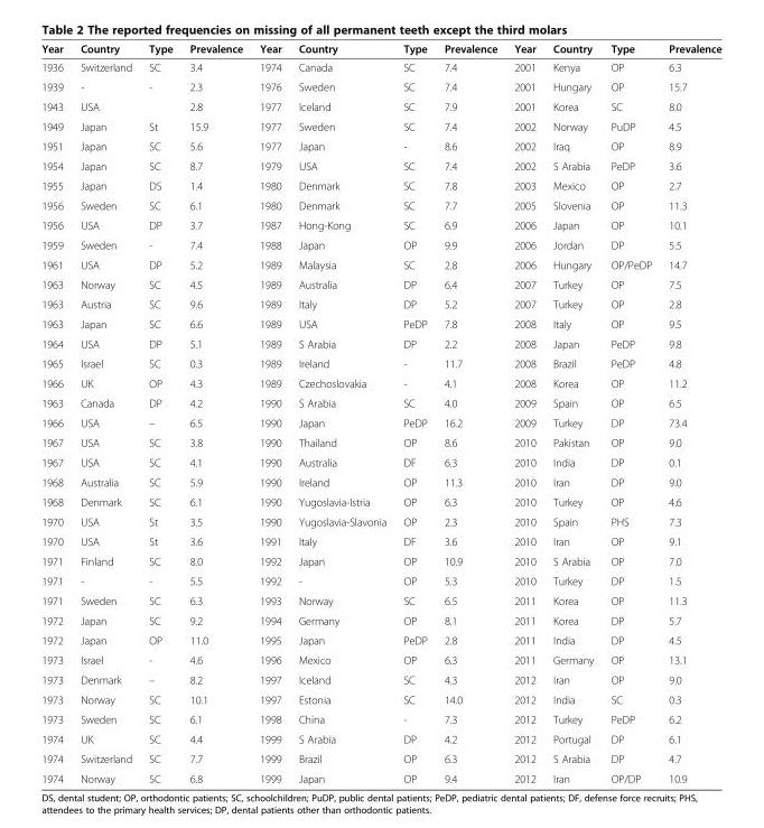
<table><thead><tr><td>Year</td><td>Country</td><td>Type</td><td>Prevalence</td><td>Year</td><td>Country</td><td>Type</td><td>Prevalence</td><td>Year</td><td>Country</td><td>Type</td><td>Prevalence</td></tr></thead><tbody><tr><td>1936</td><td>Switzerland</td><td>SC</td><td>3.4</td><td>1974</td><td>Canada</td><td>SC</td><td>7.4</td><td>2001</td><td>Kenya</td><td>OP</td><td>6.3</td></tr><tr><td>1939</td><td>-</td><td>-</td><td>2.3</td><td>1976</td><td>Sweden</td><td>SC</td><td>7.4</td><td>2001</td><td>Hungary</td><td>OP</td><td>15.7</td></tr><tr><td>1943</td><td>USA</td><td></td><td>2.8</td><td>1977</td><td>Iceland</td><td>SC</td><td>7.9</td><td>2001</td><td>Korea</td><td>SC</td><td>8.0</td></tr><tr><td>1949</td><td>Japan</td><td>St</td><td>15.9</td><td>1977</td><td>Sweden</td><td>SC</td><td>7.4</td><td>2002</td><td>Norway</td><td>PuDP</td><td>4.5</td></tr><tr><td>1951</td><td>Japan</td><td>SC</td><td>5.6</td><td>1977</td><td>Japan</td><td>-</td><td>8.6</td><td>2002</td><td>Iraq</td><td>OP</td><td>8.9</td></tr><tr><td>1954</td><td>Japan</td><td>SC</td><td>8.7</td><td>1979</td><td>USA</td><td>SC</td><td>7.4</td><td>2002</td><td>S Arabia</td><td>PeDP</td><td>3.6</td></tr><tr><td>1955</td><td>Japan</td><td>DS</td><td>1.4</td><td>1980</td><td>Denmark</td><td>SC</td><td>7.8</td><td>2003</td><td>Mexico</td><td>OP</td><td>2.7</td></tr><tr><td>1956</td><td>Sweden</td><td>SC</td><td>6.1</td><td>1980</td><td>Denmark</td><td>SC</td><td>7.7</td><td>2005</td><td>Slovenia</td><td>OP</td><td>11.3</td></tr><tr><td>1956</td><td>USA</td><td>DP</td><td>3.7</td><td>1987</td><td>Hong-Kong</td><td>SC</td><td>6.9</td><td>2006</td><td>Japan</td><td>OP</td><td>10.1</td></tr><tr><td>1959</td><td>Sweden</td><td>-</td><td>7.4</td><td>1988</td><td>Japan</td><td>OP</td><td>9.9</td><td>2006</td><td>Jordan</td><td>DP</td><td>5.5</td></tr><tr><td>1961</td><td>USA</td><td>DP</td><td>5.2</td><td>1989</td><td>Malaysia</td><td>SC</td><td>2.8</td><td>2006</td><td>Hungary</td><td>OP/PeDP</td><td>14.7</td></tr><tr><td>1963</td><td>Norway</td><td>SC</td><td>4.5</td><td>1989</td><td>Australia</td><td>DP</td><td>6.4</td><td>2007</td><td>Turkey</td><td>OP</td><td>7.5</td></tr><tr><td>1963</td><td>Austria</td><td>SC</td><td>9.6</td><td>1989</td><td>Italy</td><td>DP</td><td>5.2</td><td>2007</td><td>Turkey</td><td>OP</td><td>2.8</td></tr><tr><td>1963</td><td>Japan</td><td>SC</td><td>6.6</td><td>1989</td><td>USA</td><td>PeDP</td><td>7.8</td><td>2008</td><td>Italy</td><td>OP</td><td>9.5</td></tr><tr><td>1964</td><td>USA</td><td>DP</td><td>5.1</td><td>1989</td><td>S Arabia</td><td>DP</td><td>2.2</td><td>2008</td><td>Japan</td><td>PeDP</td><td>9.8</td></tr><tr><td>1965</td><td>Israel</td><td>SC</td><td>0.3</td><td>1989</td><td>Ireland</td><td>-</td><td>11.7</td><td>2008</td><td>Brazil</td><td>PeDP</td><td>4.8</td></tr><tr><td>1966</td><td>UK</td><td>OP</td><td>4.3</td><td>1989</td><td>Czechoslovakia</td><td>-</td><td>4.1</td><td>2008</td><td>Korea</td><td>OP</td><td>11.2</td></tr><tr><td>1963</td><td>Canada</td><td>DP</td><td>4.2</td><td>1990</td><td>S Arabia</td><td>SC</td><td>4.0</td><td>2009</td><td>Spain</td><td>OP</td><td>6.5</td></tr><tr><td>1966</td><td>USA</td><td>–</td><td>6.5</td><td>1990</td><td>Japan</td><td>PeDP</td><td>16.2</td><td>2009</td><td>Turkey</td><td>DP</td><td>73.4</td></tr><tr><td>1967</td><td>USA</td><td>SC</td><td>3.8</td><td>1990</td><td>Thailand</td><td>OP</td><td>8.6</td><td>2010</td><td>Pakistan</td><td>OP</td><td>9.0</td></tr><tr><td>1967</td><td>USA</td><td>SC</td><td>4.1</td><td>1990</td><td>Australia</td><td>DF</td><td>6.3</td><td>2010</td><td>India</td><td>DP</td><td>0.1</td></tr><tr><td>1968</td><td>Australia</td><td>SC</td><td>5.9</td><td>1990</td><td>Ireland</td><td>OP</td><td>11.3</td><td>2010</td><td>Iran</td><td>DP</td><td>9.0</td></tr><tr><td>1968</td><td>Denmark</td><td>SC</td><td>6.1</td><td>1990</td><td>Yugoslavia-Istria</td><td>OP</td><td>6.3</td><td>2010</td><td>Turkey</td><td>OP</td><td>4.6</td></tr><tr><td>1970</td><td>USA</td><td>St</td><td>3.5</td><td>1990</td><td>Yugoslavia-Slavonia</td><td>OP</td><td>2.3</td><td>2010</td><td>Spain</td><td>PHS</td><td>7.3</td></tr><tr><td>1970</td><td>USA</td><td>St</td><td>3.6</td><td>1991</td><td>Italy</td><td>DF</td><td>3.6</td><td>2010</td><td>Iran</td><td>OP</td><td>9.1</td></tr><tr><td>1971</td><td>Finland</td><td>SC</td><td>8.0</td><td>1992</td><td>Japan</td><td>OP</td><td>10.9</td><td>2010</td><td>S Arabia</td><td>OP</td><td>7.0</td></tr><tr><td>1971</td><td>-</td><td>-</td><td>5.5</td><td>1992</td><td>-</td><td>OP</td><td>5.3</td><td>2010</td><td>Turkey</td><td>DP</td><td>1.5</td></tr><tr><td>1971</td><td>Sweden</td><td>SC</td><td>6.3</td><td>1993</td><td>Norway</td><td>SC</td><td>6.5</td><td>2011</td><td>Korea</td><td>OP</td><td>11.3</td></tr><tr><td>1972</td><td>Japan</td><td>SC</td><td>9.2</td><td>1994</td><td>Germany</td><td>OP</td><td>8.1</td><td>2011</td><td>Korea</td><td>DP</td><td>5.7</td></tr><tr><td>1972</td><td>Japan</td><td>OP</td><td>11.0</td><td>1995</td><td>Japan</td><td>PeDP</td><td>2.8</td><td>2011</td><td>India</td><td>DP</td><td>4.5</td></tr><tr><td>1973</td><td>Israel</td><td>-</td><td>4.6</td><td>1996</td><td>Mexico</td><td>OP</td><td>6.3</td><td>2011</td><td>Germany</td><td>OP</td><td>13.1</td></tr><tr><td>1973</td><td>Denmark</td><td>–</td><td>8.2</td><td>1997</td><td>Iceland</td><td>SC</td><td>4.3</td><td>2012</td><td>Iran</td><td>OP</td><td>9.0</td></tr><tr><td>1973</td><td>Norway</td><td>SC</td><td>10.1</td><td>1997</td><td>Estonia</td><td>SC</td><td>14.0</td><td>2012</td><td>India</td><td>SC</td><td>0.3</td></tr><tr><td>1973</td><td>Sweden</td><td>SC</td><td>6.1</td><td>1998</td><td>China</td><td>-</td><td>7.3</td><td>2012</td><td>Turkey</td><td>PeDP</td><td>6.2</td></tr><tr><td>1974</td><td>UK</td><td>SC</td><td>4.4</td><td>1999</td><td>S Arabia</td><td>DP</td><td>4.2</td><td>2012</td><td>Portugal</td><td>DP</td><td>6.1</td></tr><tr><td>1974</td><td>Switzerland</td><td>SC</td><td>7.7</td><td>1999</td><td>Brazil</td><td>OP</td><td>6.3</td><td>2012</td><td>S Arabia</td><td>DP</td><td>4.7</td></tr><tr><td>1974</td><td>Norway</td><td>SC</td><td>6.8</td><td>1999</td><td>Japan</td><td>OP</td><td>9.4</td><td>2012</td><td>Iran</td><td>OP/DP</td><td>10.9</td></tr></tbody></table>